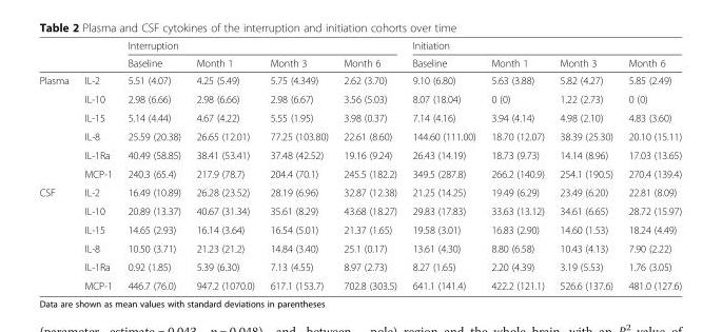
<table><thead><tr><td rowspan="2"></td><td rowspan="2"></td><td colspan="4">Interruption</td><td colspan="4">Initiation</td></tr><tr><td>Baseline</td><td>Month 1</td><td>Month 3</td><td>Month 6</td><td>Baseline</td><td>Month 1</td><td>Month 3</td><td>Month 6</td></tr></thead><tbody><tr><td rowspan="6">Plasma</td><td>IL-2</td><td>5.51 (4.07)</td><td>4.25 (5.49)</td><td>5.75 (4.349)</td><td>2.62 (3.70)</td><td>9.10 (6.80)</td><td>5.63 (3.88)</td><td>5.82 (4.27)</td><td>5.85 (2.49)</td></tr><tr><td>IL-10</td><td>2.98 (6.66)</td><td>2.98 (6.66)</td><td>2.98 (6.67)</td><td>3.56 (5.03)</td><td>8.07 (18.04)</td><td>0 (0)</td><td>1.22 (2.73)</td><td>0 (0)</td></tr><tr><td>IL-15</td><td>5.14 (4.44)</td><td>4.67 (4.22)</td><td>5.55 (1.95)</td><td>3.98 (0.37)</td><td>7.14 (4.16)</td><td>3.94 (4.14)</td><td>4.98 (2.10)</td><td>4.83 (3.60)</td></tr><tr><td>IL-8</td><td>25.59 (20.38)</td><td>26.65 (12.01)</td><td>77.25 (103.80)</td><td>22.61 (8.60)</td><td>144.60 (111.00)</td><td>18.70 (12.07)</td><td>38.39 (25.30)</td><td>20.10 (15.11)</td></tr><tr><td>IL-1Ra</td><td>40.49 (58.85)</td><td>38.41 (53.41)</td><td>37.48 (42.52)</td><td>19.16 (9.24)</td><td>26.43 (14.19)</td><td>18.73 (9.73)</td><td>14.14 (8.96)</td><td>17.03 (13.65)</td></tr><tr><td>MCP-1</td><td>240.3 (65.4)</td><td>217.9 (78.7)</td><td>204.4 (70.1)</td><td>245.5 (182.2)</td><td>349.5 (287.8)</td><td>266.2 (140.9)</td><td>254.1 (190.5)</td><td>270.4 (139.4)</td></tr><tr><td rowspan="6">CSF</td><td>IL-2</td><td>16.49 (10.89)</td><td>26.28 (23.52)</td><td>28.19 (6.96)</td><td>32.87 (12.38)</td><td>21.25 (14.25)</td><td>19.49 (6.29)</td><td>23.49 (6.20)</td><td>22.81 (8.09)</td></tr><tr><td>IL-10</td><td>20.89 (13.37)</td><td>40.67 (31.34)</td><td>35.61 (8.29)</td><td>43.68 (18.27)</td><td>29.83 (17.83)</td><td>33.63 (13.12)</td><td>34.61 (6.65)</td><td>28.72 (15.97)</td></tr><tr><td>IL-15</td><td>14.65 (2.93)</td><td>16.14 (3.64)</td><td>16.54 (5.01)</td><td>21.37 (1.65)</td><td>19.58 (3.01)</td><td>16.83 (2.90)</td><td>14.60 (1.53)</td><td>18.24 (4.49)</td></tr><tr><td>IL-8</td><td>10.50 (3.71)</td><td>21.23 (21.2)</td><td>14.84 (3.40)</td><td>25.1 (0.17)</td><td>13.61 (4.30)</td><td>8.80 (6.58)</td><td>10.43 (4.13)</td><td>7.90 (2.22)</td></tr><tr><td>IL-1Ra</td><td>0.92 (1.85)</td><td>5.39 (6.30)</td><td>7.13 (4.55)</td><td>8.97 (2.73)</td><td>8.27 (1.65)</td><td>2.20 (4.39)</td><td>3.19 (5.53)</td><td>1.76 (3.05)</td></tr><tr><td>MCP-1</td><td>446.7 (76.0)</td><td>947.2 (1070.0)</td><td>617.1 (153.7)</td><td>702.8 (303.5)</td><td>641.1 (141.4)</td><td>422.2 (121.1)</td><td>526.6 (137.6)</td><td>481.0 (127.6)</td></tr></tbody></table>